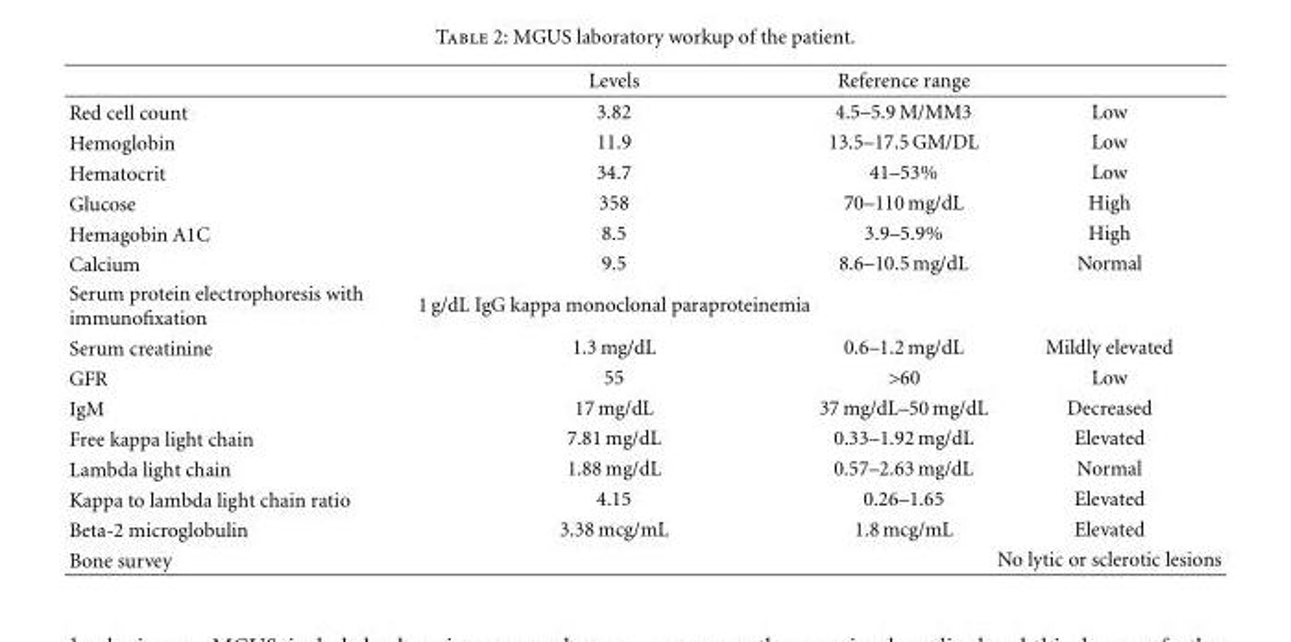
<table><thead><tr><td></td><td>Levels</td><td>Reference range</td><td></td></tr></thead><tbody><tr><td>Red cell count</td><td>3.82</td><td>4.5–5.9 M/MM3</td><td>Low</td></tr><tr><td>Hemoglobin</td><td>11.9</td><td>13.5–17.5 GM/DL</td><td>Low</td></tr><tr><td>Hematocrit</td><td>34.7</td><td>41–53%</td><td>Low</td></tr><tr><td>Glucose</td><td>358</td><td>70–110 mg/dL</td><td>High</td></tr><tr><td>Hemagobin A1C</td><td>8.5</td><td>3.9–5.9%</td><td>High</td></tr><tr><td>Calcium</td><td>9.5</td><td>8.6–10.5 mg/dL</td><td>Normal</td></tr><tr><td>Serum protein electrophoresis with immunofixation</td><td>1 g/dL IgG kappa monoclonal paraproteinemia</td><td></td><td></td></tr><tr><td>Serum creatinine</td><td>1.3 mg/dL</td><td>0.6–1.2 mg/dL</td><td>Mildly elevated</td></tr><tr><td>GFR</td><td>55</td><td>&gt;60</td><td>Low</td></tr><tr><td>IgM</td><td>17 mg/dL</td><td>37 mg/dL–50 mg/dL</td><td>Decreased</td></tr><tr><td>Free kappa light chain</td><td>7.81 mg/dL</td><td>0.33–1.92 mg/dL</td><td>Elevated</td></tr><tr><td>Lambda light chain</td><td>1.88 mg/dL</td><td>0.57–2.63 mg/dL</td><td>Normal</td></tr><tr><td>Kappa to lambda light chain ratio</td><td>4.15</td><td>0.26–1.65</td><td>Elevated</td></tr><tr><td>Beta-2 microglobulin</td><td>3.38 mcg/mL</td><td>1.8 mcg/mL</td><td>Elevated</td></tr><tr><td>Bone survey</td><td></td><td></td><td>No lytic or sclerotic lesions</td></tr></tbody></table>